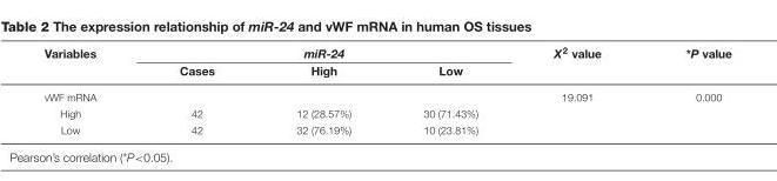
<table><thead><tr><td rowspan="2">Variables</td><td colspan="3">miR-24</td><td rowspan="2">X<sup>2</sup> value</td><td rowspan="2">*P value</td></tr><tr><td>Cases</td><td>High</td><td>Low</td></tr></thead><tbody><tr><td>vWF mRNA</td><td></td><td></td><td></td><td>19.091</td><td>0.000</td></tr><tr><td>High</td><td>42</td><td>12 (28.57%)</td><td>30 (71.43%)</td><td></td><td></td></tr><tr><td>Low</td><td>42</td><td>32 (76.19%)</td><td>10 (23.81%)</td><td></td><td></td></tr></tbody></table>